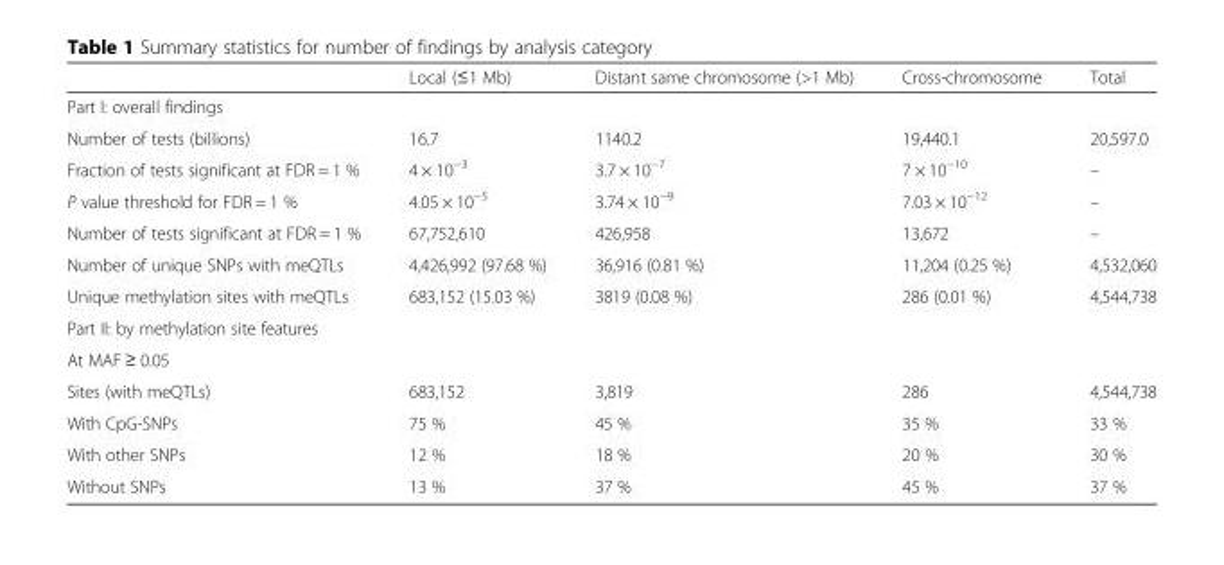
<table><thead><tr><td></td><td>Local (≤1 Mb)</td><td>Distant same chromosome (&gt;1 Mb)</td><td>Cross-chromosome</td><td>Total</td></tr></thead><tbody><tr><td colspan="5">Part I: overall findings</td></tr><tr><td>Number of tests (billions)</td><td>16.7</td><td>1140.2</td><td>19,440.1</td><td>20,597.0</td></tr><tr><td>Fraction of tests significant at FDR = 1 %</td><td>4 × 10<sup>−3</sup></td><td>3.7 × 10<sup>−7</sup></td><td>7 × 10<sup>−10</sup></td><td>–</td></tr><tr><td>P value threshold for FDR = 1 %</td><td>4.05 × 10<sup>−5</sup></td><td>3.74 × 10<sup>−9</sup></td><td>7.03 × 10<sup>−12</sup></td><td>–</td></tr><tr><td>Number of tests significant at FDR = 1 %</td><td>67,752,610</td><td>426,958</td><td>13,672</td><td>–</td></tr><tr><td>Number of unique SNPs with meQTLs</td><td>4,426,992 (97.68 %)</td><td>36,916 (0.81 %)</td><td>11,204 (0.25 %)</td><td>4,532,060</td></tr><tr><td>Unique methylation sites with meQTLs</td><td>683,152 (15.03 %)</td><td>3819 (0.08 %)</td><td>286 (0.01 %)</td><td>4,544,738</td></tr><tr><td colspan="5">Part II: by methylation site features</td></tr><tr><td colspan="5">At MAF ≥ 0.05</td></tr><tr><td>Sites (with meQTLs)</td><td>683,152</td><td>3,819</td><td>286</td><td>4,544,738</td></tr><tr><td>With CpG-SNPs</td><td>75 %</td><td>45 %</td><td>35 %</td><td>33 %</td></tr><tr><td>With other SNPs</td><td>12 %</td><td>18 %</td><td>20 %</td><td>30 %</td></tr><tr><td>Without SNPs</td><td>13 %</td><td>37 %</td><td>45 %</td><td>37 %</td></tr></tbody></table>